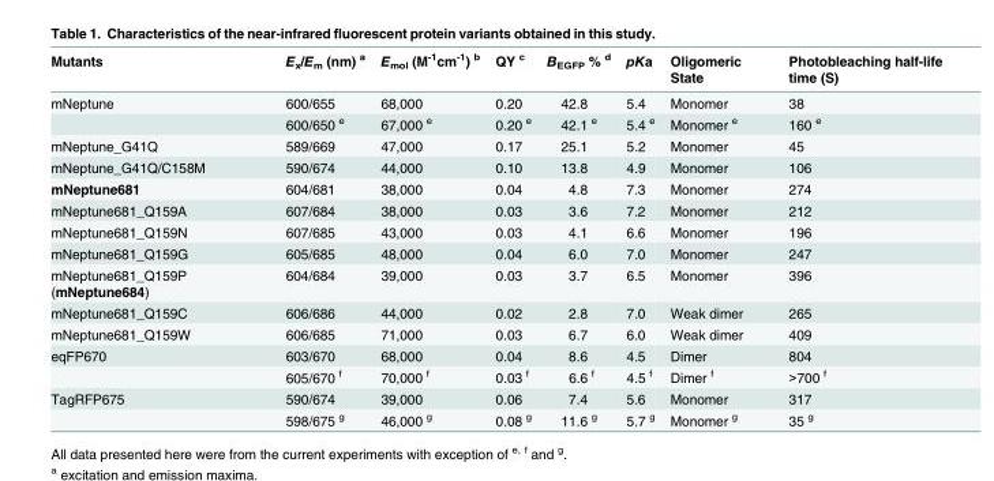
<table><thead><tr><td>Mutants</td><td>E<sub>x</sub>/E<sub>m</sub> (nm) <sup>a</sup></td><td>E<sub>mol</sub> (M<sup>-1</sup>cm<sup>-1</sup>) <sup>b</sup></td><td>QY <sup>c</sup></td><td>B<sub>EGFP</sub> % <sup>d</sup></td><td>pKa</td><td>Oligomeric State</td><td>Photobleaching half-life time (S)</td></tr></thead><tbody><tr><td rowspan="2">mNeptune</td><td>600/655</td><td>68,000</td><td>0.20</td><td>42.8</td><td>5.4</td><td>Monomer</td><td>38</td></tr><tr><td>600/650 <sup>e</sup></td><td>67,000 <sup>e</sup></td><td>0.20 <sup>e</sup></td><td>42.1 <sup>e</sup></td><td>5.4 <sup>e</sup></td><td>Monomer <sup>e</sup></td><td>160 <sup>e</sup></td></tr><tr><td>mNeptune_G41Q</td><td>589/669</td><td>47,000</td><td>0.17</td><td>25.1</td><td>5.2</td><td>Monomer</td><td>45</td></tr><tr><td>mNeptune_G41Q/C158M</td><td>590/674</td><td>44,000</td><td>0.10</td><td>13.8</td><td>4.9</td><td>Monomer</td><td>106</td></tr><tr><td>mNeptune681</td><td>604/681</td><td>38,000</td><td>0.04</td><td>4.8</td><td>7.3</td><td>Monomer</td><td>274</td></tr><tr><td>mNeptune681_Q159A</td><td>607/684</td><td>38,000</td><td>0.03</td><td>3.6</td><td>7.2</td><td>Monomer</td><td>212</td></tr><tr><td>mNeptune681_Q159N</td><td>607/685</td><td>43,000</td><td>0.03</td><td>4.1</td><td>6.6</td><td>Monomer</td><td>196</td></tr><tr><td>mNeptune681_Q159G</td><td>605/685</td><td>48,000</td><td>0.04</td><td>6.0</td><td>7.0</td><td>Monomer</td><td>247</td></tr><tr><td>mNeptune681_Q159P (mNeptune684)</td><td>604/684</td><td>39,000</td><td>0.03</td><td>3.7</td><td>6.5</td><td>Monomer</td><td>396</td></tr><tr><td>mNeptune681_Q159C</td><td>606/686</td><td>44,000</td><td>0.02</td><td>2.8</td><td>7.0</td><td>Weak dimer</td><td>265</td></tr><tr><td>mNeptune681_Q159W</td><td>606/685</td><td>71,000</td><td>0.03</td><td>6.7</td><td>6.0</td><td>Weak dimer</td><td>409</td></tr><tr><td rowspan="2">eqFP670</td><td>603/670</td><td>68,000</td><td>0.04</td><td>8.6</td><td>4.5</td><td>Dimer</td><td>804</td></tr><tr><td>605/670 <sup>f</sup></td><td>70,000 <sup>f</sup></td><td>0.03 <sup>f</sup></td><td>6.6 <sup>f</sup></td><td>4.5 <sup>f</sup></td><td>Dimer <sup>f</sup></td><td>&gt;700 <sup>f</sup></td></tr><tr><td rowspan="2">TagRFP675</td><td>590/674</td><td>39,000</td><td>0.06</td><td>7.4</td><td>5.6</td><td>Monomer</td><td>317</td></tr><tr><td>598/675 <sup>g</sup></td><td>46,000 <sup>g</sup></td><td>0.08 <sup>g</sup></td><td>11.6 <sup>g</sup></td><td>5.7 <sup>g</sup></td><td>Monomer <sup>g</sup></td><td>35 <sup>g</sup></td></tr></tbody></table>